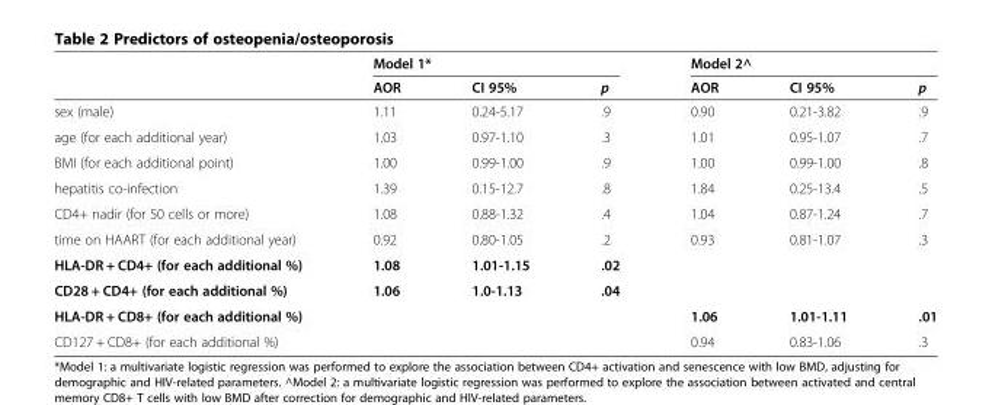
<table><thead><tr><td rowspan="2"></td><td colspan="3">Model 1*</td><td colspan="3">Model 2^</td></tr><tr><td>AOR</td><td>CI 95%</td><td>p</td><td>AOR</td><td>CI 95%</td><td>p</td></tr></thead><tbody><tr><td>sex (male)</td><td>1.11</td><td>0.24-5.17</td><td>.9</td><td>0.90</td><td>0.21-3.82</td><td>.9</td></tr><tr><td>age (for each additional year)</td><td>1.03</td><td>0.97-1.10</td><td>.3</td><td>1.01</td><td>0.95-1.07</td><td>.7</td></tr><tr><td>BMI (for each additional point)</td><td>1.00</td><td>0.99-1.00</td><td>.9</td><td>1.00</td><td>0.99-1.00</td><td>.8</td></tr><tr><td>hepatitis co-infection</td><td>1.39</td><td>0.15-12.7</td><td>.8</td><td>1.84</td><td>0.25-13.4</td><td>.5</td></tr><tr><td>CD4+ nadir (for 50 cells or more)</td><td>1.08</td><td>0.88-1.32</td><td>.4</td><td>1.04</td><td>0.87-1.24</td><td>.7</td></tr><tr><td>time on HAART (for each additional year)</td><td>0.92</td><td>0.80-1.05</td><td>.2</td><td>0.93</td><td>0.81-1.07</td><td>.3</td></tr><tr><td>HLA-DR + CD4+ (for each additional %)</td><td>1.08</td><td>1.01-1.15</td><td>.02</td><td></td><td></td><td></td></tr><tr><td>CD28 + CD4+ (for each additional %)</td><td>1.06</td><td>1.0-1.13</td><td>.04</td><td></td><td></td><td></td></tr><tr><td>HLA-DR + CD8+ (for each additional %)</td><td></td><td></td><td></td><td>1.06</td><td>1.01-1.11</td><td>.01</td></tr><tr><td>CD127 + CD8+ (for each additional %)</td><td></td><td></td><td></td><td>0.94</td><td>0.83-1.06</td><td>.3</td></tr></tbody></table>